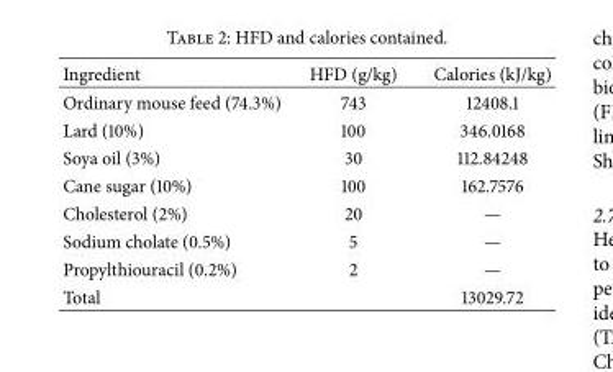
<table><thead><tr><td>Ingredient</td><td>HFD (g/kg)</td><td>Calories (kJ/kg)</td></tr></thead><tbody><tr><td>Ordinary mouse feed (74.3%)</td><td>743</td><td>12408.1</td></tr><tr><td>Lard (10%)</td><td>100</td><td>346.0168</td></tr><tr><td>Soya oil (3%)</td><td>30</td><td>112.84248</td></tr><tr><td>Cane sugar (10%)</td><td>100</td><td>162.7576</td></tr><tr><td>Cholesterol (2%)</td><td>20</td><td>—</td></tr><tr><td>Sodium cholate (0.5%)</td><td>5</td><td>—</td></tr><tr><td>Propylthiouracil (0.2%)</td><td>2</td><td>—</td></tr><tr><td>Total</td><td></td><td>13029.72</td></tr></tbody></table>